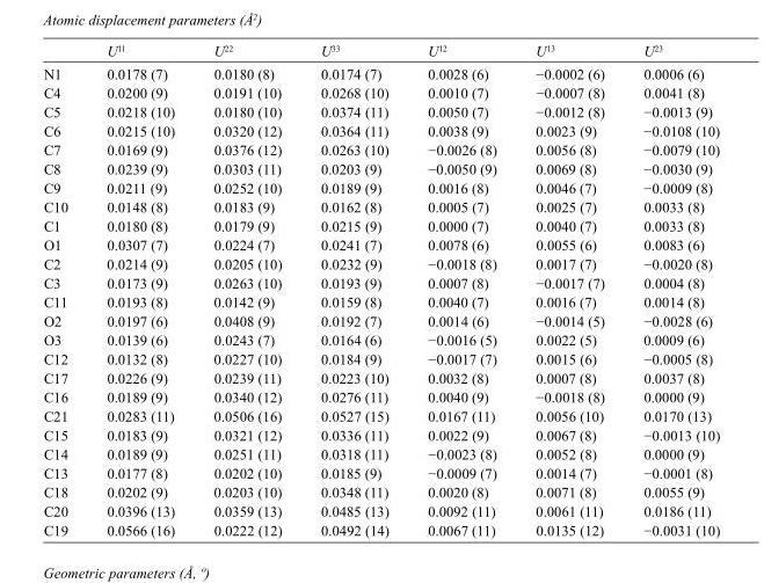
<table><thead><tr><td></td><td>U<sup>11</sup></td><td>U<sup>22</sup></td><td>U<sup>33</sup></td><td>U<sup>12</sup></td><td>U<sup>13</sup></td><td>U<sup>23</sup></td></tr></thead><tbody><tr><td>N1</td><td>0.0178 (7)</td><td>0.0180 (8)</td><td>0.0174 (7)</td><td>0.0028 (6)</td><td>−0.0002 (6)</td><td>0.0006 (6)</td></tr><tr><td>C4</td><td>0.0200 (9)</td><td>0.0191 (10)</td><td>0.0268 (10)</td><td>0.0010 (7)</td><td>−0.0007 (8)</td><td>0.0041 (8)</td></tr><tr><td>C5</td><td>0.0218 (10)</td><td>0.0180 (10)</td><td>0.0374 (11)</td><td>0.0050 (7)</td><td>−0.0012 (8)</td><td>−0.0013 (9)</td></tr><tr><td>C6</td><td>0.0215 (10)</td><td>0.0320 (12)</td><td>0.0364 (11)</td><td>0.0038 (9)</td><td>0.0023 (9)</td><td>−0.0108 (10)</td></tr><tr><td>C7</td><td>0.0169 (9)</td><td>0.0376 (12)</td><td>0.0263 (10)</td><td>−0.0026 (8)</td><td>0.0056 (8)</td><td>−0.0079 (10)</td></tr><tr><td>C8</td><td>0.0239 (9)</td><td>0.0303 (11)</td><td>0.0203 (9)</td><td>−0.0050 (9)</td><td>0.0069 (8)</td><td>−0.0030 (9)</td></tr><tr><td>C9</td><td>0.0211 (9)</td><td>0.0252 (10)</td><td>0.0189 (9)</td><td>0.0016 (8)</td><td>0.0046 (7)</td><td>−0.0009 (8)</td></tr><tr><td>C10</td><td>0.0148 (8)</td><td>0.0183 (9)</td><td>0.0162 (8)</td><td>0.0005 (7)</td><td>0.0025 (7)</td><td>0.0033 (8)</td></tr><tr><td>C1</td><td>0.0180 (8)</td><td>0.0179 (9)</td><td>0.0215 (9)</td><td>0.0000 (7)</td><td>0.0040 (7)</td><td>0.0033 (8)</td></tr><tr><td>O1</td><td>0.0307 (7)</td><td>0.0224 (7)</td><td>0.0241 (7)</td><td>0.0078 (6)</td><td>0.0055 (6)</td><td>0.0083 (6)</td></tr><tr><td>C2</td><td>0.0214 (9)</td><td>0.0205 (10)</td><td>0.0232 (9)</td><td>−0.0018 (8)</td><td>0.0017 (7)</td><td>−0.0020 (8)</td></tr><tr><td>C3</td><td>0.0173 (9)</td><td>0.0263 (10)</td><td>0.0193 (9)</td><td>0.0007 (8)</td><td>−0.0017 (7)</td><td>0.0004 (8)</td></tr><tr><td>C11</td><td>0.0193 (8)</td><td>0.0142 (9)</td><td>0.0159 (8)</td><td>0.0040 (7)</td><td>0.0016 (7)</td><td>0.0014 (8)</td></tr><tr><td>O2</td><td>0.0197 (6)</td><td>0.0408 (9)</td><td>0.0192 (7)</td><td>0.0014 (6)</td><td>−0.0014 (5)</td><td>−0.0028 (6)</td></tr><tr><td>O3</td><td>0.0139 (6)</td><td>0.0243 (7)</td><td>0.0164 (6)</td><td>−0.0016 (5)</td><td>0.0022 (5)</td><td>0.0009 (6)</td></tr><tr><td>C12</td><td>0.0132 (8)</td><td>0.0227 (10)</td><td>0.0184 (9)</td><td>−0.0017 (7)</td><td>0.0015 (6)</td><td>−0.0005 (8)</td></tr><tr><td>C17</td><td>0.0226 (9)</td><td>0.0239 (11)</td><td>0.0223 (10)</td><td>0.0032 (8)</td><td>0.0007 (8)</td><td>0.0037 (8)</td></tr><tr><td>C16</td><td>0.0189 (9)</td><td>0.0340 (12)</td><td>0.0276 (11)</td><td>0.0040 (9)</td><td>−0.0018 (8)</td><td>0.0000 (9)</td></tr><tr><td>C21</td><td>0.0283 (11)</td><td>0.0506 (16)</td><td>0.0527 (15)</td><td>0.0167 (11)</td><td>0.0056 (10)</td><td>0.0170 (13)</td></tr><tr><td>C15</td><td>0.0183 (9)</td><td>0.0321 (12)</td><td>0.0336 (11)</td><td>0.0022 (9)</td><td>0.0067 (8)</td><td>−0.0013 (10)</td></tr><tr><td>C14</td><td>0.0189 (9)</td><td>0.0251 (11)</td><td>0.0318 (11)</td><td>−0.0023 (8)</td><td>0.0052 (8)</td><td>0.0000 (9)</td></tr><tr><td>C13</td><td>0.0177 (8)</td><td>0.0202 (10)</td><td>0.0185 (9)</td><td>−0.0009 (7)</td><td>0.0014 (7)</td><td>−0.0001 (8)</td></tr><tr><td>C18</td><td>0.0202 (9)</td><td>0.0203 (10)</td><td>0.0348 (11)</td><td>0.0020 (8)</td><td>0.0071 (8)</td><td>0.0055 (9)</td></tr><tr><td>C20</td><td>0.0396 (13)</td><td>0.0359 (13)</td><td>0.0485 (13)</td><td>0.0092 (11)</td><td>0.0061 (11)</td><td>0.0186 (11)</td></tr><tr><td>C19</td><td>0.0566 (16)</td><td>0.0222 (12)</td><td>0.0492 (14)</td><td>0.0067 (11)</td><td>0.0135 (12)</td><td>−0.0031 (10)</td></tr></tbody></table>